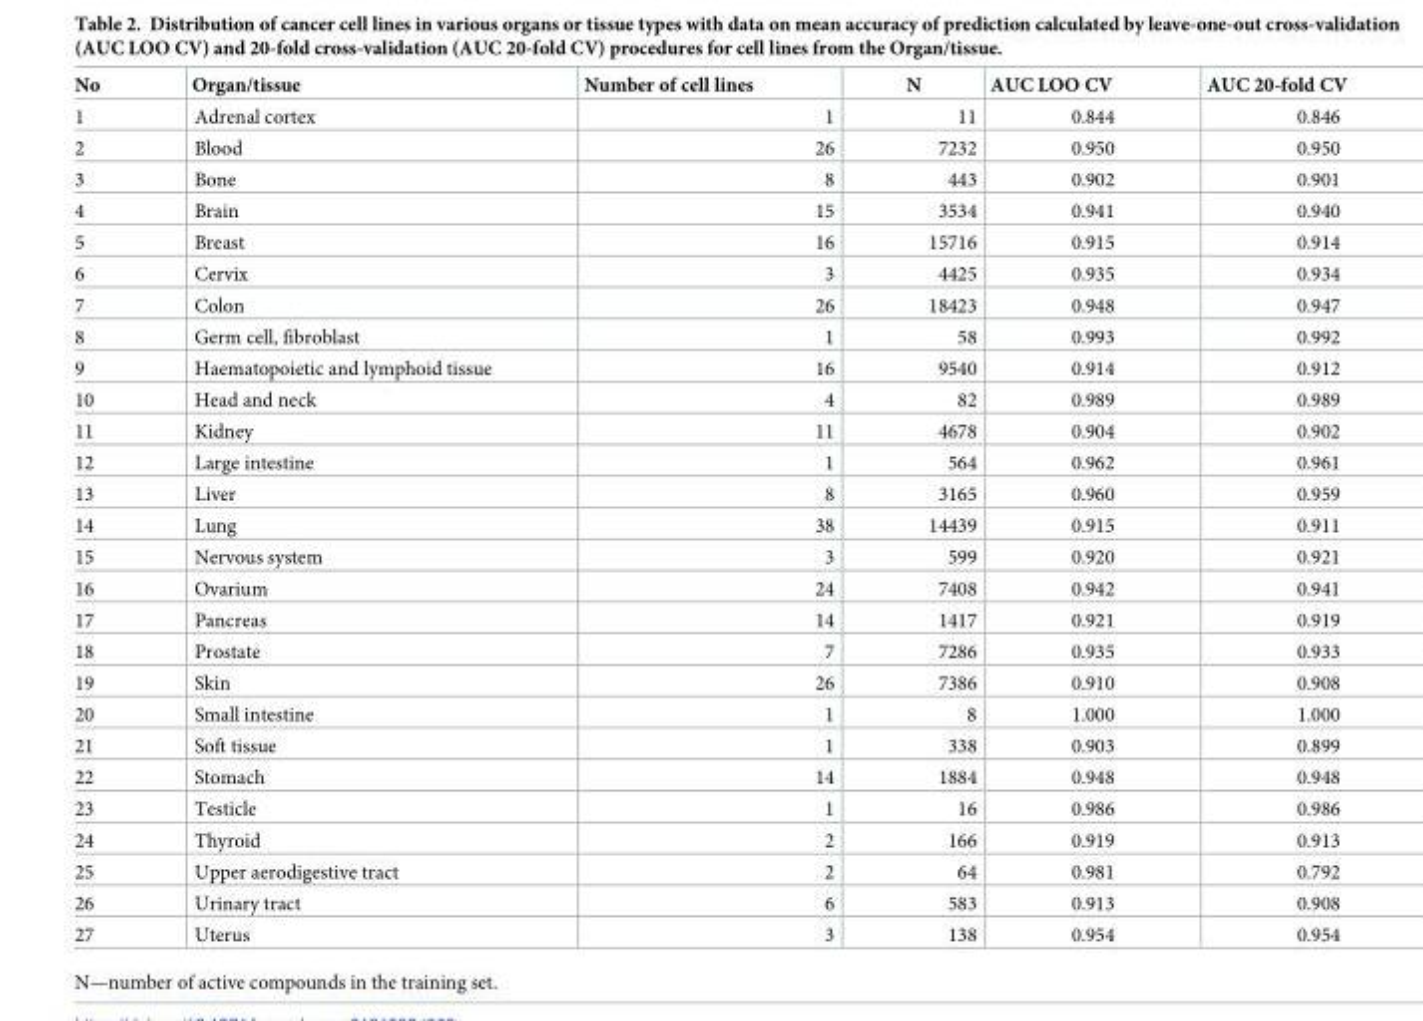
<table><thead><tr><td>No</td><td>Organ/tissue</td><td>Number of cell lines</td><td>N</td><td>AUC LOO CV</td><td>AUC 20-fold CV</td></tr></thead><tbody><tr><td>1</td><td>Adrenal cortex</td><td>1</td><td>11</td><td>0.844</td><td>0.846</td></tr><tr><td>2</td><td>Blood</td><td>26</td><td>7232</td><td>0.950</td><td>0.950</td></tr><tr><td>3</td><td>Bone</td><td>8</td><td>443</td><td>0.902</td><td>0.901</td></tr><tr><td>4</td><td>Brain</td><td>15</td><td>3534</td><td>0.941</td><td>0.940</td></tr><tr><td>5</td><td>Breast</td><td>16</td><td>15716</td><td>0.915</td><td>0.914</td></tr><tr><td>6</td><td>Cervix</td><td>3</td><td>4425</td><td>0.935</td><td>0.934</td></tr><tr><td>7</td><td>Colon</td><td>26</td><td>18423</td><td>0.948</td><td>0.947</td></tr><tr><td>8</td><td>Germ cell, fibroblast</td><td>1</td><td>58</td><td>0.993</td><td>0.992</td></tr><tr><td>9</td><td>Haematopoietic and lymphoid tissue</td><td>16</td><td>9540</td><td>0.914</td><td>0.912</td></tr><tr><td>10</td><td>Head and neck</td><td>4</td><td>82</td><td>0.989</td><td>0.989</td></tr><tr><td>11</td><td>Kidney</td><td>11</td><td>4678</td><td>0.904</td><td>0.902</td></tr><tr><td>12</td><td>Large intestine</td><td>1</td><td>564</td><td>0.962</td><td>0.961</td></tr><tr><td>13</td><td>Liver</td><td>8</td><td>3165</td><td>0.960</td><td>0.959</td></tr><tr><td>14</td><td>Lung</td><td>38</td><td>14439</td><td>0.915</td><td>0.911</td></tr><tr><td>15</td><td>Nervous system</td><td>3</td><td>599</td><td>0.920</td><td>0.921</td></tr><tr><td>16</td><td>Ovarium</td><td>24</td><td>7408</td><td>0.942</td><td>0.941</td></tr><tr><td>17</td><td>Pancreas</td><td>14</td><td>1417</td><td>0.921</td><td>0.919</td></tr><tr><td>18</td><td>Prostate</td><td>7</td><td>7286</td><td>0.935</td><td>0.933</td></tr><tr><td>19</td><td>Skin</td><td>26</td><td>7386</td><td>0.910</td><td>0.908</td></tr><tr><td>20</td><td>Small intestine</td><td>1</td><td>8</td><td>1.000</td><td>1.000</td></tr><tr><td>21</td><td>Soft tissue</td><td>1</td><td>338</td><td>0.903</td><td>0.899</td></tr><tr><td>22</td><td>Stomach</td><td>14</td><td>1884</td><td>0.948</td><td>0.948</td></tr><tr><td>23</td><td>Testicle</td><td>1</td><td>16</td><td>0.986</td><td>0.986</td></tr><tr><td>24</td><td>Thyroid</td><td>2</td><td>166</td><td>0.919</td><td>0.913</td></tr><tr><td>25</td><td>Upper aerodigestive tract</td><td>2</td><td>64</td><td>0.981</td><td>0.792</td></tr><tr><td>26</td><td>Urinary tract</td><td>6</td><td>583</td><td>0.913</td><td>0.908</td></tr><tr><td>27</td><td>Uterus</td><td>3</td><td>138</td><td>0.954</td><td>0.954</td></tr></tbody></table>